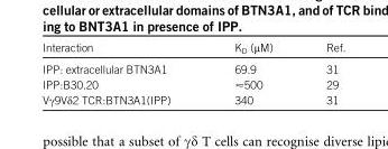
<table><thead><tr><td>Interaction</td><td>K<sub>D</sub> (μM)</td><td>Ref.</td></tr></thead><tbody><tr><td>IPP: extracellular BTN3A1</td><td>69.9</td><td>31</td></tr><tr><td>IPP:B30.20</td><td>&lt;500</td><td>29</td></tr><tr><td>Vγ9Vδ2 TCR:BTN3A1(IPP)</td><td>340</td><td>31</td></tr></tbody></table>